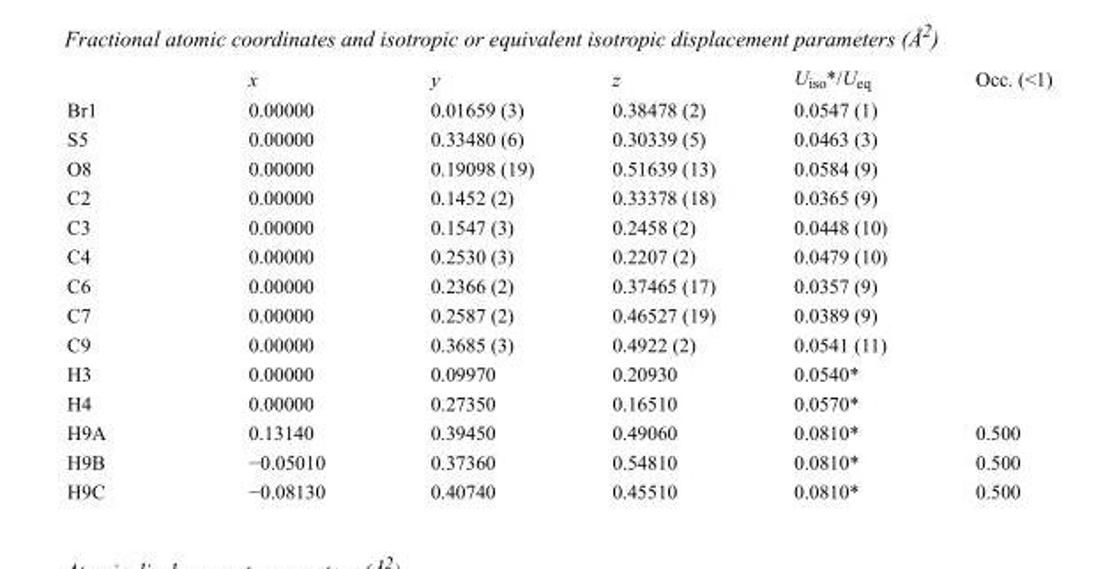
<table><thead><tr><td></td><td>x</td><td>y</td><td>z</td><td>U<sub>iso</sub>*/U<sub>eq</sub></td><td>Occ. (&lt;1)</td></tr></thead><tbody><tr><td>Br1</td><td>0.00000</td><td>0.01659 (3)</td><td>0.38478 (2)</td><td>0.0547 (1)</td><td></td></tr><tr><td>S5</td><td>0.00000</td><td>0.33480 (6)</td><td>0.30339 (5)</td><td>0.0463 (3)</td><td></td></tr><tr><td>O8</td><td>0.00000</td><td>0.19098 (19)</td><td>0.51639 (13)</td><td>0.0584 (9)</td><td></td></tr><tr><td>C2</td><td>0.00000</td><td>0.1452 (2)</td><td>0.33378 (18)</td><td>0.0365 (9)</td><td></td></tr><tr><td>C3</td><td>0.00000</td><td>0.1547 (3)</td><td>0.2458 (2)</td><td>0.0448 (10)</td><td></td></tr><tr><td>C4</td><td>0.00000</td><td>0.2530 (3)</td><td>0.2207 (2)</td><td>0.0479 (10)</td><td></td></tr><tr><td>C6</td><td>0.00000</td><td>0.2366 (2)</td><td>0.37465 (17)</td><td>0.0357 (9)</td><td></td></tr><tr><td>C7</td><td>0.00000</td><td>0.2587 (2)</td><td>0.46527 (19)</td><td>0.0389 (9)</td><td></td></tr><tr><td>C9</td><td>0.00000</td><td>0.3685 (3)</td><td>0.4922 (2)</td><td>0.0541 (11)</td><td></td></tr><tr><td>H3</td><td>0.00000</td><td>0.09970</td><td>0.20930</td><td>0.0540*</td><td></td></tr><tr><td>H4</td><td>0.00000</td><td>0.27350</td><td>0.16510</td><td>0.0570*</td><td></td></tr><tr><td>H9A</td><td>0.13140</td><td>0.39450</td><td>0.49060</td><td>0.0810*</td><td>0.500</td></tr><tr><td>H9B</td><td>−0.05010</td><td>0.37360</td><td>0.54810</td><td>0.0810*</td><td>0.500</td></tr><tr><td>H9C</td><td>−0.08130</td><td>0.40740</td><td>0.45510</td><td>0.0810*</td><td>0.500</td></tr></tbody></table>